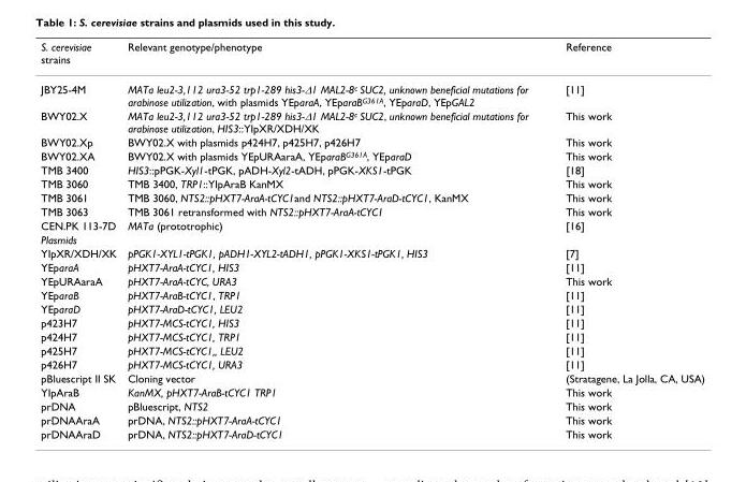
<table><thead><tr><td>S. cerevisiae strains</td><td>Relevant genotype/phenotype</td><td>Reference</td></tr></thead><tbody><tr><td>JBY25-4M</td><td>MATa leu2-3,112 ura3-52 trp1-289 his3-∆1 MAL2-8c SUC2, unknown beneficial mutations for arabinose utilization, with plasmids YEparaA, YEparaBG361A, YEparaD, YEpGAL2</td><td>[11]</td></tr><tr><td>BWY02.X</td><td>MATa leu2-3,112 ura3-52 trp1-289 his3-∆1 MAL2-8c SUC2, unknown beneficial mutations for arabinose utilization, HIS3::YIpXR/XDH/XK</td><td>This work</td></tr><tr><td>BWY02.Xp</td><td>BWY02.X with plasmids p424H7, p425H7, p426H7</td><td>This work</td></tr><tr><td>BWY02.XA</td><td>BWY02.X with plasmids YEpURAaraA, YEparaB<sup>G361A</sup>, YEparaD</td><td>This work</td></tr><tr><td>TMB 3400</td><td>HIS3::pPGK-Xyl1-tPGK, pADH-Xyl2-tADH, pPGK-XKS1-tPGK</td><td>[18]</td></tr><tr><td>TMB 3060</td><td>TMB 3400, TRP1::YIpAraB KanMX</td><td>This work</td></tr><tr><td>TMB 3061</td><td>TMB 3060, NTS2::pHXT7-AraA-tCYC1and NTS2::pHXT7-AraD-tCYC1, KanMX</td><td>This work</td></tr><tr><td>TMB 3063</td><td>TMB 3061 retransformed with NTS2::pHXT7-AraA-tCYC1</td><td>This work</td></tr><tr><td>CEN.PK 113-7D</td><td>MATa (prototrophic)</td><td>[16]</td></tr><tr><td colspan="3">Plasmids</td></tr><tr><td>YIpXR/XDH/XK</td><td>pPGK1-XYL1-tPGK1, pADH1-XYL2-tADH1, pPGK1-XKS1-tPGK1, HIS3</td><td>[7]</td></tr><tr><td>YEparaA</td><td>pHXT7-AraA-tCYC1, HIS3</td><td>[11]</td></tr><tr><td>YEpURAaraA</td><td>pHXT7-AraA-tCYC, URA3</td><td>This work</td></tr><tr><td>YEparaB</td><td>pHXT7-AraB-tCYC1, TRP1</td><td>[11]</td></tr><tr><td>YEparaD</td><td>pHXT7-AraD-tCYC1, LEU2</td><td>[11]</td></tr><tr><td>p423H7</td><td>pHXT7-MCS-tCYC1, HIS3</td><td>[11]</td></tr><tr><td>p424H7</td><td>pHXT7-MCS-tCYC1, TRP1</td><td>[11]</td></tr><tr><td>p425H7</td><td>pHXT7-MCS-tCYC1,, LEU2</td><td>[11]</td></tr><tr><td>p426H7</td><td>pHXT7-MCS-tCYC1, URA3</td><td>[11]</td></tr><tr><td>pBluescript II SK</td><td>Cloning vector</td><td>(Stratagene, La Jolla, CA, USA)</td></tr><tr><td>YIpAraB</td><td>KanMX, pHXT7-AraB-tCYC1 TRP1</td><td>This work</td></tr><tr><td>prDNA</td><td>pBluescript, NTS2</td><td>This work</td></tr><tr><td>prDNAAraA</td><td>prDNA, NTS2::pHXT7-AraA-tCYC1</td><td>This work</td></tr><tr><td>prDNAAraD</td><td>prDNA, NTS2::pHXT7-AraD-tCYC1</td><td>This work</td></tr></tbody></table>